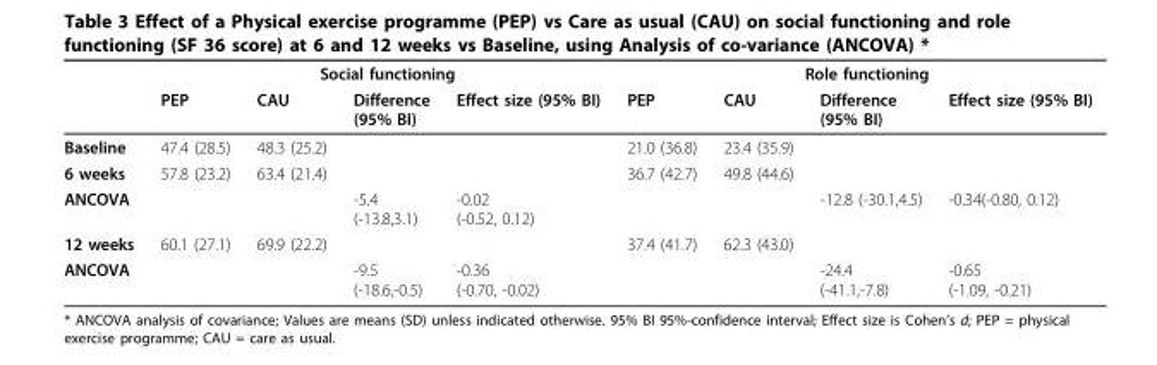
<table><thead><tr><td rowspan="2"></td><td colspan="4">Social functioning</td><td colspan="4">Role functioning</td></tr><tr><td>PEP</td><td>CAU</td><td>Difference (95% BI)</td><td>Effect size (95% BI)</td><td>PEP</td><td>CAU</td><td>Difference (95% BI)</td><td>Effect size (95% BI)</td></tr></thead><tbody><tr><td>Baseline</td><td>47.4 (28.5)</td><td>48.3 (25.2)</td><td></td><td></td><td>21.0 (36.8)</td><td>23.4 (35.9)</td><td></td><td></td></tr><tr><td>6 weeks</td><td>57.8 (23.2)</td><td>63.4 (21.4)</td><td></td><td></td><td>36.7 (42.7)</td><td>49.8 (44.6)</td><td></td><td></td></tr><tr><td>ANCOVA</td><td></td><td></td><td>-5.4 (-13.8,3.1)</td><td>-0.02 (-0.52, 0.12)</td><td></td><td></td><td>-12.8 (-30.1,4.5)</td><td>-0.34(-0.80, 0.12)</td></tr><tr><td>12 weeks</td><td>60.1 (27.1)</td><td>69.9 (22.2)</td><td></td><td></td><td>37.4 (41.7)</td><td>62.3 (43.0)</td><td></td><td></td></tr><tr><td>ANCOVA</td><td></td><td></td><td>-9.5 (-18.6,-0.5)</td><td>-0.36 (-0.70, -0.02)</td><td></td><td></td><td>-24.4 (-41.1,-7.8)</td><td>-0.65 (-1.09, -0.21)</td></tr></tbody></table>